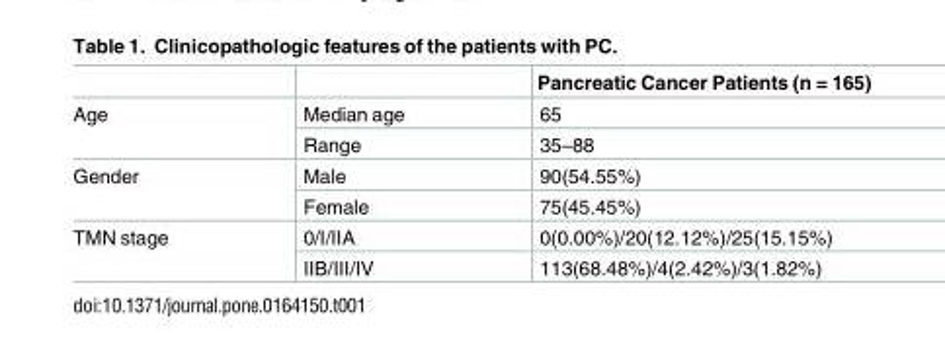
<table><thead><tr><td></td><td></td><td>Pancreatic Cancer Patients (n = 165)</td></tr></thead><tbody><tr><td rowspan="2">Age</td><td>Median age</td><td>65</td></tr><tr><td>Range</td><td>35–88</td></tr><tr><td rowspan="2">Gender</td><td>Male</td><td>90(54.55%)</td></tr><tr><td>Female</td><td>75(45.45%)</td></tr><tr><td rowspan="2">TMN stage</td><td>0/I/IIA</td><td>0(0.00%)/20(12.12%)/25(15.15%)</td></tr><tr><td>IIB/III/IV</td><td>113(68.48%)/4(2.42%)/3(1.82%)</td></tr></tbody></table>